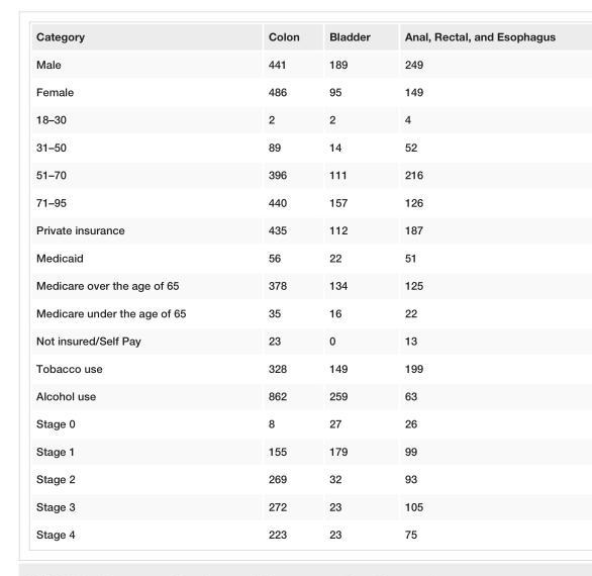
<table><tbody><tr><td>Category</td><td>Colon</td><td>Bladder</td><td>Anal, Rectal, and Esophagus</td></tr><tr><td>Male</td><td>441</td><td>189</td><td>249</td></tr><tr><td>Female</td><td>486</td><td>95</td><td>149</td></tr><tr><td>18–30</td><td>2</td><td>2</td><td>4</td></tr><tr><td>31–50</td><td>89</td><td>14</td><td>52</td></tr><tr><td>51–70</td><td>396</td><td>111</td><td>216</td></tr><tr><td>71–95</td><td>440</td><td>157</td><td>126</td></tr><tr><td>Private insurance</td><td>435</td><td>112</td><td>187</td></tr><tr><td>Medicaid</td><td>56</td><td>22</td><td>51</td></tr><tr><td>Medicare over the age of 65</td><td>378</td><td>134</td><td>125</td></tr><tr><td>Medicare under the age of 65</td><td>35</td><td>16</td><td>22</td></tr><tr><td>Not insured/Self Pay</td><td>23</td><td>0</td><td>13</td></tr><tr><td>Tobacco use</td><td>328</td><td>149</td><td>199</td></tr><tr><td>Alcohol use</td><td>862</td><td>259</td><td>63</td></tr><tr><td>Stage 0</td><td>8</td><td>27</td><td>26</td></tr><tr><td>Stage 1</td><td>155</td><td>179</td><td>99</td></tr><tr><td>Stage 2</td><td>269</td><td>32</td><td>93</td></tr><tr><td>Stage 3</td><td>272</td><td>23</td><td>105</td></tr><tr><td>Stage 4</td><td>223</td><td>23</td><td>75</td></tr></tbody></table>